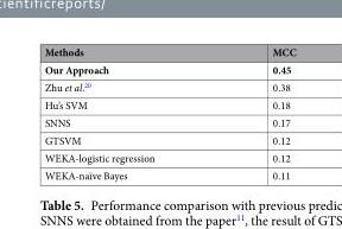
<table><thead><tr><td>Methods</td><td>MCC</td></tr></thead><tbody><tr><td>Our Approach</td><td>0.45</td></tr><tr><td>Zhu et al.<sup>20</sup></td><td>0.38</td></tr><tr><td>Hu’s SVM</td><td>0.18</td></tr><tr><td>SNNS</td><td>0.17</td></tr><tr><td>GTSVM</td><td>0.12</td></tr><tr><td>WEKA-logistic regression</td><td>0.12</td></tr><tr><td>WEKA-naïve Bayes</td><td>0.11</td></tr></tbody></table>